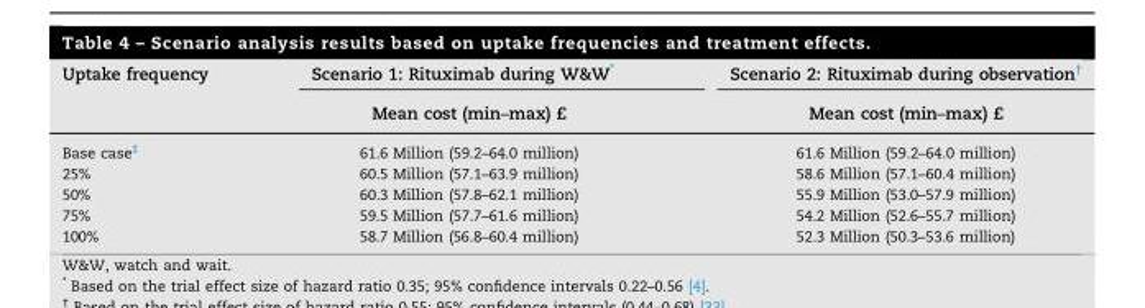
<table><thead><tr><td rowspan="2">Uptake frequency</td><td rowspan="2">Scenario 1: Rituximab during W&amp;W* Mean cost (min–max) £</td><td rowspan="2">Scenario 2: Rituximab during observation† Mean cost (min–max) £</td></tr><tr></tr></thead><tbody><tr><td>Base case‡</td><td>61.6 Million (59.2–64.0 million)</td><td>61.6 Million (59.2–64.0 million)</td></tr><tr><td>25%</td><td>60.5 Million (57.1–63.9 million)</td><td>58.6 Million (57.1–60.4 million)</td></tr><tr><td>50%</td><td>60.3 Million (57.8–62.1 million)</td><td>55.9 Million (53.0–57.9 million)</td></tr><tr><td>75%</td><td>59.5 Million (57.7–61.6 million)</td><td>54.2 Million (52.6–55.7 million)</td></tr><tr><td>100%</td><td>58.7 Million (56.8–60.4 million)</td><td>52.3 Million (50.3–53.6 million)</td></tr></tbody></table>